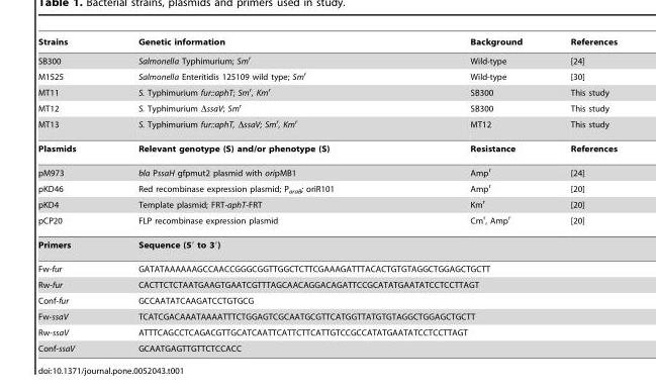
<table><thead><tr><td>Strains</td><td>Genetic information</td><td>Background</td><td>References</td></tr></thead><tbody><tr><td>SB300</td><td>Salmonella Typhimurium; Sm<sup>r</sup></td><td>Wild-type</td><td>[24]</td></tr><tr><td>M1525</td><td>Salmonella Enteritidis 125109 wild type; Sm<sup>r</sup></td><td>Wild-type</td><td>[30]</td></tr><tr><td>MT11</td><td>S. Typhimurium fur::aphT; Sm<sup>r</sup>, Km<sup>r</sup></td><td>SB300</td><td>This study</td></tr><tr><td>MT12</td><td>S. Typhimurium ΔssaV; Sm<sup>r</sup></td><td>SB300</td><td>This study</td></tr><tr><td>MT13</td><td>S. Typhimurium fur::aphT, ΔssaV; Sm<sup>r</sup>, Km<sup>r</sup></td><td>MT12</td><td>This study</td></tr><tr><td>Plasmids</td><td>Relevant genotype (S) and/or phenotype (S)</td><td>Resistance</td><td>References</td></tr><tr><td>pM973</td><td>bla PssaH gfpmut2 plasmid with oripMB1</td><td>Amp<sup>r</sup></td><td>[24]</td></tr><tr><td>pKD46</td><td>Red recombinase expression plasmid; P<sub>araB</sub>; oriR101</td><td>Amp<sup>r</sup></td><td>[20]</td></tr><tr><td>pKD4</td><td>Template plasmid; FRT-aphT-FRT</td><td>Km<sup>r</sup></td><td>[20]</td></tr><tr><td>pCP20</td><td>FLP recombinase expression plasmid</td><td>Cm<sup>r</sup>, Amp<sup>r</sup></td><td>[20]</td></tr><tr><td>Primers</td><td colspan="3">Sequence (5′ to 3′)</td></tr><tr><td>Fw-fur</td><td colspan="3">GATATAAAAAAGCCAACCGGGCGGTTGGCTCTTCGAAAGATTTACACTGTGTAGGCTGGAGCTGCTT</td></tr><tr><td>Rw-fur</td><td colspan="3">CACTTCTCTAATGAAGTGAATCGTTTAGCAACAGGACAGATTCCGCATATGAATATCCTCCTTAGT</td></tr><tr><td>Conf-fur</td><td colspan="3">GCCAATATCAAGATCCTGTGCG</td></tr><tr><td>Fw-ssaV</td><td colspan="3">TCATCGACAAATAAAATTTCTGGAGTCGCAATGCGTTCATGGTTATGTGTAGGCTGGAGCTGCTT</td></tr><tr><td>Rw-ssaV</td><td colspan="3">ATTTCAGCCTCAGACGTTGCATCAATTCATTCTTCATTGTCCGCCATATGAATATCCTCCTTAGT</td></tr><tr><td>Conf-ssaV</td><td colspan="3">GCAATGAGTTGTTCTCCACC</td></tr></tbody></table>